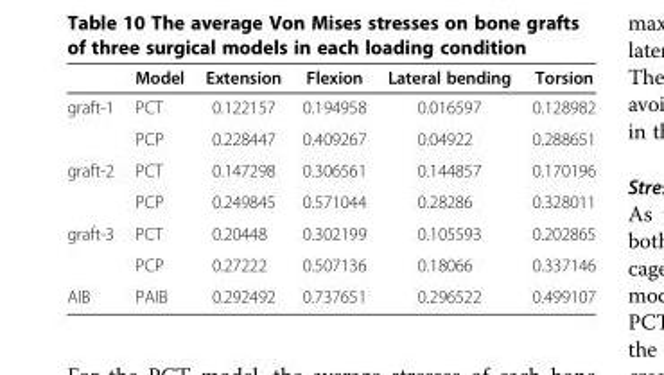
<table><thead><tr><td></td><td>Model</td><td>Extension</td><td>Flexion</td><td>Lateral bending</td><td>Torsion</td></tr></thead><tbody><tr><td rowspan="2">graft-1</td><td>PCT</td><td>0.122157</td><td>0.194958</td><td>0.016597</td><td>0.128982</td></tr><tr><td>PCP</td><td>0.228447</td><td>0.409267</td><td>0.04922</td><td>0.288651</td></tr><tr><td rowspan="2">graft-2</td><td>PCT</td><td>0.147298</td><td>0.306561</td><td>0.144857</td><td>0.170196</td></tr><tr><td>PCP</td><td>0.249845</td><td>0.571044</td><td>0.28286</td><td>0.328011</td></tr><tr><td rowspan="2">graft-3</td><td>PCT</td><td>0.20448</td><td>0.302199</td><td>0.105593</td><td>0.202865</td></tr><tr><td>PCP</td><td>0.27222</td><td>0.507136</td><td>0.18066</td><td>0.337146</td></tr><tr><td>AIB</td><td>PAIB</td><td>0.292492</td><td>0.737651</td><td>0.296522</td><td>0.499107</td></tr></tbody></table>